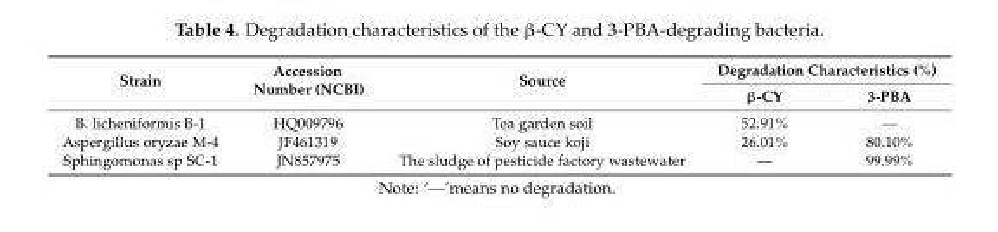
<table><thead><tr><td rowspan="2">Strain</td><td rowspan="2">Accession Number (NCBI)</td><td rowspan="2">Source</td><td colspan="2">Degradation Characteristics (%)</td></tr><tr><td>β-CY</td><td>3-PBA</td></tr></thead><tbody><tr><td>B. licheniformis B-1</td><td>HQ009796</td><td>Tea garden soil</td><td>52.91%</td><td>—</td></tr><tr><td>Aspergillus oryzae M-4</td><td>JF461319</td><td>Soy sauce koji</td><td>26.01%</td><td>80.10%</td></tr><tr><td>Sphingomonas sp SC-1</td><td>JN857975</td><td>The sludge of pesticide factory wastewater</td><td>—</td><td>99.99%</td></tr></tbody></table>